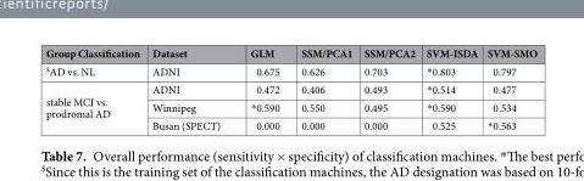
<table><thead><tr><td>Group Classification</td><td>Dataset</td><td>GLM</td><td>SSM/PCA1</td><td>SSM/PCA2</td><td>SVM-ISDA</td><td>SVM-SMO</td></tr></thead><tbody><tr><td><sup>$</sup>AD vs. NL</td><td>ADNI</td><td>0.675</td><td>0.626</td><td>0.703</td><td>*0.803</td><td>0.797</td></tr><tr><td rowspan="3">stable MCI vs. prodromal AD</td><td>ADNI</td><td>0.472</td><td>0.406</td><td>0.493</td><td>*0.514</td><td>0.477</td></tr><tr><td>Winnipeg</td><td>*0.590</td><td>0.550</td><td>0.495</td><td>*0.590</td><td>0.534</td></tr><tr><td>Busan (SPECT)</td><td>0.000</td><td>0.000</td><td>0.000</td><td>0.525</td><td>*0.563</td></tr></tbody></table>